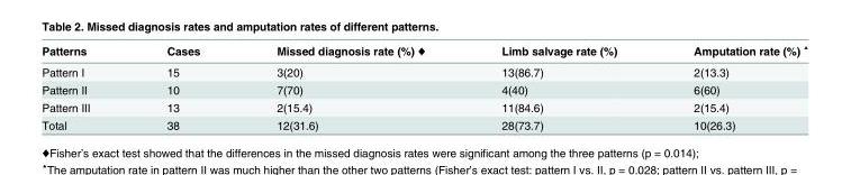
<table><thead><tr><td>Patterns</td><td>Cases</td><td>Missed diagnosis rate (%) ♦</td><td>Limb salvage rate (%)</td><td>Amputation rate (%) <sup>▲</sup></td></tr></thead><tbody><tr><td>Pattern I</td><td>15</td><td>3(20)</td><td>13(86.7)</td><td>2(13.3)</td></tr><tr><td>Pattern II</td><td>10</td><td>7(70)</td><td>4(40)</td><td>6(60)</td></tr><tr><td>Pattern III</td><td>13</td><td>2(15.4)</td><td>11(84.6)</td><td>2(15.4)</td></tr><tr><td>Total</td><td>38</td><td>12(31.6)</td><td>28(73.7)</td><td>10(26.3)</td></tr></tbody></table>